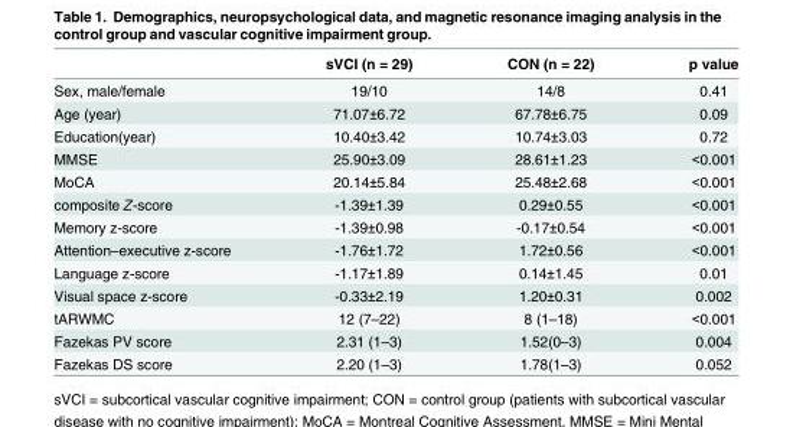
<table><thead><tr><td></td><td>sVCI (n = 29)</td><td>CON (n = 22)</td><td>p value</td></tr></thead><tbody><tr><td>Sex, male/female</td><td>19/10</td><td>14/8</td><td>0.41</td></tr><tr><td>Age (year)</td><td>71.07±6.72</td><td>67.78±6.75</td><td>0.09</td></tr><tr><td>Education(year)</td><td>10.40±3.42</td><td>10.74±3.03</td><td>0.72</td></tr><tr><td>MMSE</td><td>25.90±3.09</td><td>28.61±1.23</td><td>&lt;0.001</td></tr><tr><td>MoCA</td><td>20.14±5.84</td><td>25.48±2.68</td><td>&lt;0.001</td></tr><tr><td>composite Z-score</td><td>-1.39±1.39</td><td>0.29±0.55</td><td>&lt;0.001</td></tr><tr><td>Memory z-score</td><td>-1.39±0.98</td><td>-0.17±0.54</td><td>&lt;0.001</td></tr><tr><td>Attention–executive z-score</td><td>-1.76±1.72</td><td>1.72±0.56</td><td>&lt;0.001</td></tr><tr><td>Language z-score</td><td>-1.17±1.89</td><td>0.14±1.45</td><td>0.01</td></tr><tr><td>Visual space z-score</td><td>-0.33±2.19</td><td>1.20±0.31</td><td>0.002</td></tr><tr><td>tARWMC</td><td>12 (7–22)</td><td>8 (1–18)</td><td>&lt;0.001</td></tr><tr><td>Fazekas PV score</td><td>2.31 (1–3)</td><td>1.52(0–3)</td><td>0.004</td></tr><tr><td>Fazekas DS score</td><td>2.20 (1–3)</td><td>1.78(1–3)</td><td>0.052</td></tr></tbody></table>